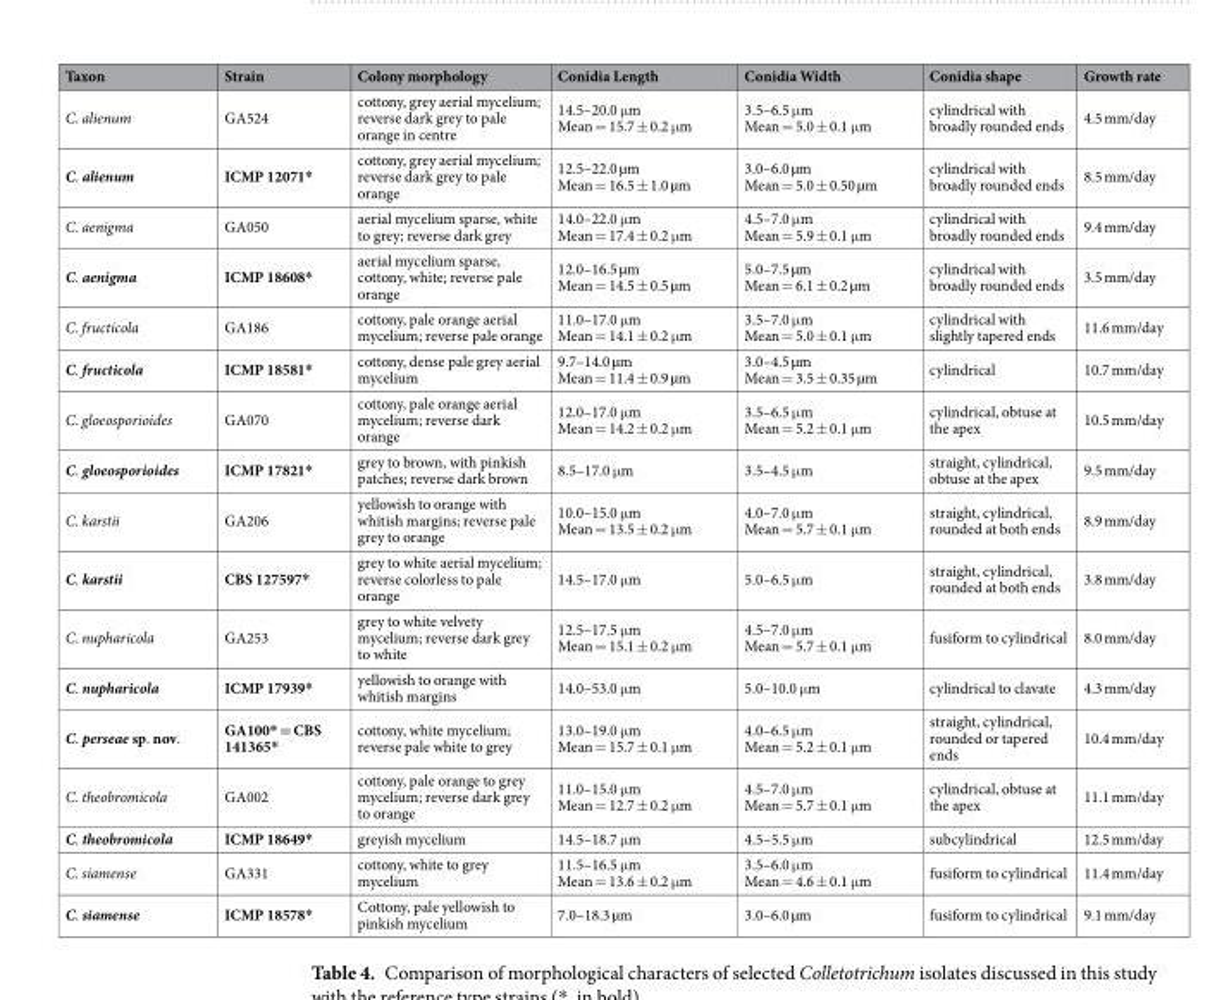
<table><thead><tr><td>Taxon</td><td>Strain</td><td>Colony morphology</td><td>Conidia Length</td><td>Conidia Width</td><td>Conidia shape</td><td>Growth rate</td></tr></thead><tbody><tr><td>C. alienum</td><td>GA524</td><td>cottony, grey aerial mycelium; reverse dark grey to pale orange in centre</td><td>14.5–20.0 μm Mean = 15.7 ± 0.2 μm</td><td>3.5–6.5 μm Mean = 5.0 ± 0.1 μm</td><td>cylindrical with broadly rounded ends</td><td>4.5 mm/day</td></tr><tr><td>C. alienum</td><td>ICMP 12071*</td><td>cottony, grey aerial mycelium; reverse dark grey to pale orange</td><td>12.5–22.0 µm Mean = 16.5 ± 1.0 µm</td><td>3.0–6.0 µm Mean = 5.0 ± 0.50 µm</td><td>cylindrical with broadly rounded ends</td><td>8.5 mm/day</td></tr><tr><td>C. aenigma</td><td>GA050</td><td>aerial mycelium sparse, white to grey; reverse dark grey</td><td>14.0–22.0 μm Mean = 17.4 ± 0.2 μm</td><td>4.5–7.0 μm Mean = 5.9 ± 0.1 μm</td><td>cylindrical with broadly rounded ends</td><td>9.4 mm/day</td></tr><tr><td>C. aenigma</td><td>ICMP 18608*</td><td>aerial mycelium sparse, cottony, white; reverse pale orange</td><td>12.0–16.5 µm Mean = 14.5 ± 0.5 µm</td><td>5.0–7.5 µm Mean = 6.1 ± 0.2 µm</td><td>cylindrical with broadly rounded ends</td><td>3.5 mm/day</td></tr><tr><td>C. fructicola</td><td>GA186</td><td>cottony, pale orange aerial mycelium; reverse pale orange</td><td>11.0–17.0 μm Mean = 14.1 ± 0.2 μm</td><td>3.5–7.0 μm Mean = 5.0 ± 0.1 μm</td><td>cylindrical with slightly tapered ends</td><td>11.6 mm/day</td></tr><tr><td>C. fructicola</td><td>ICMP 18581*</td><td>cottony, dense pale grey aerial mycelium</td><td>9.7–14.0 µm Mean = 11.4 ± 0.9 µm</td><td>3.0–4.5 µm Mean = 3.5 ± 0.35 µm</td><td>cylindrical</td><td>10.7 mm/day</td></tr><tr><td>C. gloeosporioides</td><td>GA070</td><td>cottony, pale orange aerial mycelium; reverse dark orange</td><td>12.0–17.0 μm Mean = 14.2 ± 0.2 μm</td><td>3.5–6.5 μm Mean = 5.2 ± 0.1 μm</td><td>cylindrical, obtuse at the apex</td><td>10.5 mm/day</td></tr><tr><td>C. gloeosporioides</td><td>ICMP 17821*</td><td>grey to brown, with pinkish patches; reverse dark brown</td><td>8.5–17.0 μm</td><td>3.5–4.5 μm</td><td>straight, cylindrical, obtuse at the apex</td><td>9.5 mm/day</td></tr><tr><td>C. karstii</td><td>GA206</td><td>yellowish to orange with whitish margins; reverse pale grey to orange</td><td>10.0–15.0 μm Mean = 13.5 ± 0.2 μm</td><td>4.0–7.0 μm Mean = 5.7 ± 0.1 μm</td><td>straight, cylindrical, rounded at both ends</td><td>8.9 mm/day</td></tr><tr><td>C. karstii</td><td>CBS 127597*</td><td>grey to white aerial mycelium; reverse colorless to pale orange</td><td>14.5–17.0 μm</td><td>5.0–6.5 μm</td><td>straight, cylindrical, rounded at both ends</td><td>3.8 mm/day</td></tr><tr><td>C. nupharicola</td><td>GA253</td><td>grey to white velvety mycelium; reverse dark grey to white</td><td>12.5–17.5 μm Mean = 15.1 ± 0.2 μm</td><td>4.5–7.0 μm Mean = 5.7 ± 0.1 μm</td><td>fusiform to cylindrical</td><td>8.0 mm/day</td></tr><tr><td>C. nupharicola</td><td>ICMP 17939*</td><td>yellowish to orange with whitish margins</td><td>14.0–53.0 μm</td><td>5.0–10.0 μm</td><td>cylindrical to clavate</td><td>4.3 mm/day</td></tr><tr><td>C. perseae sp. nov.</td><td>GA100* = CBS 141365*</td><td>cottony, white mycelium; reverse pale white to grey</td><td>13.0–19.0 μm Mean = 15.7 ± 0.1 μm</td><td>4.0–6.5 μm Mean = 5.2 ± 0.1 μm</td><td>straight, cylindrical, rounded or tapered ends</td><td>10.4 mm/day</td></tr><tr><td>C. theobromicola</td><td>GA002</td><td>cottony, pale orange to grey mycelium; reverse dark grey to orange</td><td>11.0–15.0 μm Mean = 12.7 ± 0.2 μm</td><td>4.5–7.0 μm Mean = 5.7 ± 0.1 μm</td><td>cylindrical, obtuse at the apex</td><td>11.1 mm/day</td></tr><tr><td>C. theobromicola</td><td>ICMP 18649*</td><td>greyish mycelium</td><td>14.5–18.7 μm</td><td>4.5–5.5 μm</td><td>subcylindrical</td><td>12.5 mm/day</td></tr><tr><td>C. siamense</td><td>GA331</td><td>cottony, white to grey mycelium</td><td>11.5–16.5 μm Mean = 13.6 ± 0.2 μm</td><td>3.5–6.0 μm Mean = 4.6 ± 0.1 μm</td><td>fusiform to cylindrical</td><td>11.4 mm/day</td></tr><tr><td>C. siamense</td><td>ICMP 18578*</td><td>Cottony, pale yellowish to pinkish mycelium</td><td>7.0–18.3 µm</td><td>3.0–6.0 µm</td><td>fusiform to cylindrical</td><td>9.1 mm/day</td></tr></tbody></table>